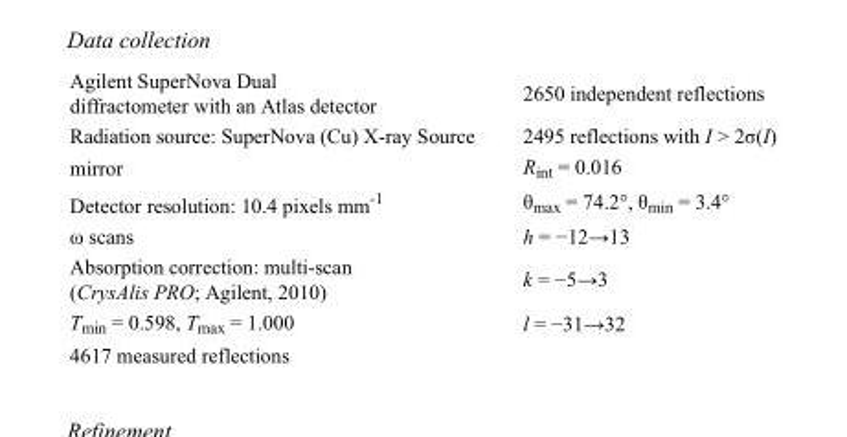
<table><tbody><tr><td>Agilent SuperNova Dual diffractometer with an Atlas detector</td><td>2650 independent reflections</td></tr><tr><td>Radiation source: SuperNova (Cu) X-ray Source</td><td>2495 reflections with I &gt; 2σ(I)</td></tr><tr><td>mirror</td><td>R<sub>int</sub> = 0.016</td></tr><tr><td>Detector resolution: 10.4 pixels mm<sup>-1</sup></td><td>θ<sub>max</sub> = 74.2°, θ<sub>min</sub> = 3.4°</td></tr><tr><td>ω scans</td><td>h = −12→13</td></tr><tr><td>Absorption correction: multi-scan (CrysAlis PRO; Agilent, 2010)</td><td>k = −5→3</td></tr><tr><td>T<sub>min</sub> = 0.598, T<sub>max</sub> = 1.000</td><td>l = −31→32</td></tr><tr><td>4617 measured reflections</td><td></td></tr></tbody></table>